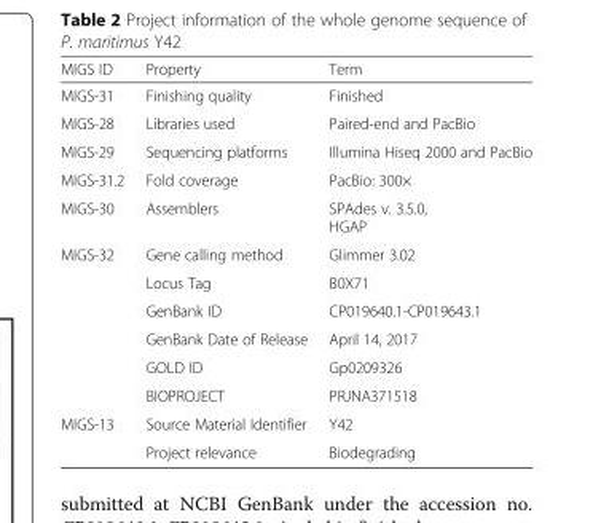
<table><thead><tr><td>MIGS ID</td><td>Property</td><td>Term</td></tr></thead><tbody><tr><td>MIGS-31</td><td>Finishing quality</td><td>Finished</td></tr><tr><td>MIGS-28</td><td>Libraries used</td><td>Paired-end and PacBio</td></tr><tr><td>MIGS-29</td><td>Sequencing platforms</td><td>Illumina Hiseq 2000 and PacBio</td></tr><tr><td>MIGS-31.2</td><td>Fold coverage</td><td>PacBio: 300×</td></tr><tr><td>MIGS-30</td><td>Assemblers</td><td>SPAdes v. 3.5.0, HGAP</td></tr><tr><td rowspan="6">MIGS-32</td><td>Gene calling method</td><td>Glimmer 3.02</td></tr><tr><td>Locus Tag</td><td>B0X71</td></tr><tr><td>GenBank ID</td><td>CP019640.1-CP019643.1</td></tr><tr><td>GenBank Date of Release</td><td>April 14, 2017</td></tr><tr><td>GOLD ID</td><td>Gp0209326</td></tr><tr><td>BIOPROJECT</td><td>PRJNA371518</td></tr><tr><td rowspan="2">MIGS-13</td><td>Source Material Identifier</td><td>Y42</td></tr><tr><td>Project relevance</td><td>Biodegrading</td></tr></tbody></table>